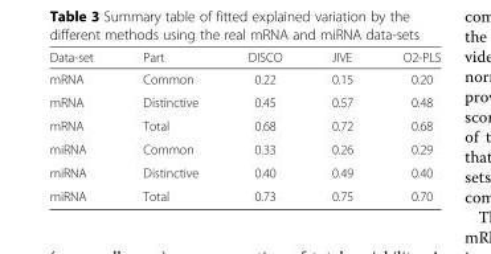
<table><thead><tr><td>Data-set</td><td>Part</td><td>DISCO</td><td>JIVE</td><td>O2-PLS</td></tr></thead><tbody><tr><td>mRNA</td><td>Common</td><td>0.22</td><td>0.15</td><td>0.20</td></tr><tr><td>mRNA</td><td>Distinctive</td><td>0.45</td><td>0.57</td><td>0.48</td></tr><tr><td>mRNA</td><td>Total</td><td>0.68</td><td>0.72</td><td>0.68</td></tr><tr><td>miRNA</td><td>Common</td><td>0.33</td><td>0.26</td><td>0.29</td></tr><tr><td>miRNA</td><td>Distinctive</td><td>0.40</td><td>0.49</td><td>0.40</td></tr><tr><td>miRNA</td><td>Total</td><td>0.73</td><td>0.75</td><td>0.70</td></tr></tbody></table>